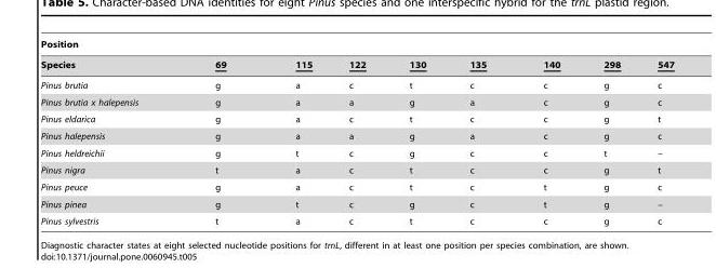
<table><thead><tr><td colspan="9">Position</td></tr><tr><td>Species</td><td>69</td><td>115</td><td>122</td><td>130</td><td>135</td><td>140</td><td>298</td><td>547</td></tr></thead><tbody><tr><td>Pinus brutia</td><td>g</td><td>a</td><td>c</td><td>t</td><td>c</td><td>c</td><td>g</td><td>c</td></tr><tr><td>Pinus brutia x halepensis</td><td>g</td><td>a</td><td>a</td><td>g</td><td>a</td><td>c</td><td>g</td><td>c</td></tr><tr><td>Pinus eldarica</td><td>g</td><td>a</td><td>c</td><td>t</td><td>c</td><td>c</td><td>g</td><td>t</td></tr><tr><td>Pinus halepensis</td><td>g</td><td>a</td><td>a</td><td>g</td><td>a</td><td>c</td><td>g</td><td>c</td></tr><tr><td>Pinus heldreichii</td><td>g</td><td>t</td><td>c</td><td>g</td><td>c</td><td>c</td><td>t</td><td>–</td></tr><tr><td>Pinus nigra</td><td>t</td><td>a</td><td>c</td><td>t</td><td>c</td><td>c</td><td>g</td><td>t</td></tr><tr><td>Pinus peuce</td><td>g</td><td>a</td><td>c</td><td>t</td><td>c</td><td>t</td><td>g</td><td>c</td></tr><tr><td>Pinus pinea</td><td>g</td><td>t</td><td>c</td><td>g</td><td>c</td><td>t</td><td>g</td><td>–</td></tr><tr><td>Pinus sylvestris</td><td>t</td><td>a</td><td>c</td><td>t</td><td>c</td><td>c</td><td>g</td><td>c</td></tr></tbody></table>